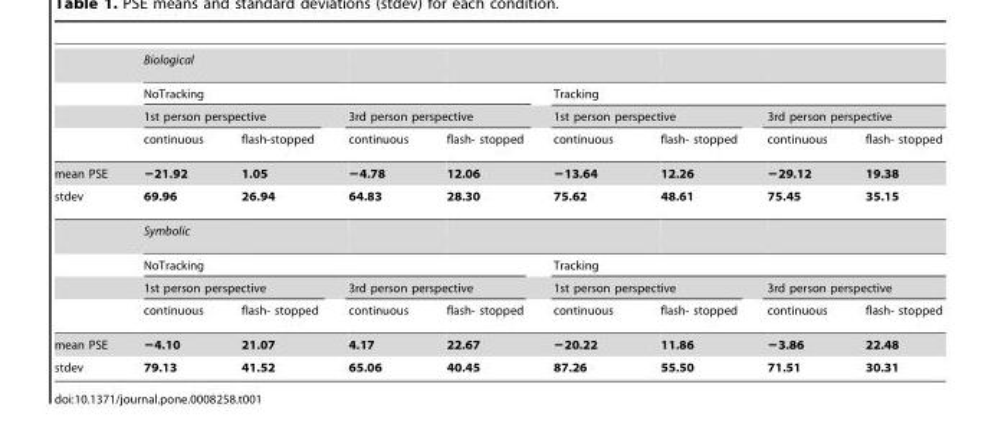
<table><thead><tr><td></td><td>Biological</td><td></td><td></td><td></td><td></td><td></td><td></td><td></td></tr></thead><tbody><tr><td></td><td colspan="2">NoTracking</td><td></td><td></td><td>Tracking</td><td></td><td></td><td></td></tr><tr><td></td><td colspan="2">1st person perspective</td><td colspan="2">3rd person perspective</td><td colspan="2">1st person perspective</td><td colspan="2">3rd person perspective</td></tr><tr><td></td><td>continuous</td><td>flash-stopped</td><td>continuous</td><td>flash- stopped</td><td>continuous</td><td>flash- stopped</td><td>continuous</td><td>flash- stopped</td></tr><tr><td>mean PSE</td><td>−21.92</td><td>1.05</td><td>−4.78</td><td>12.06</td><td>−13.64</td><td>12.26</td><td>−29.12</td><td>19.38</td></tr><tr><td rowspan="5">stdev</td><td>69.96</td><td>26.94</td><td>64.83</td><td>28.30</td><td>75.62</td><td>48.61</td><td>75.45</td><td>35.15</td></tr><tr><td>Symbolic</td><td></td><td></td><td></td><td></td><td></td><td></td><td></td></tr><tr><td colspan="2">NoTracking</td><td></td><td></td><td>Tracking</td><td></td><td></td><td></td></tr><tr><td colspan="2">1st person perspective</td><td colspan="2">3rd person perspective</td><td colspan="2">1st person perspective</td><td colspan="2">3rd person perspective</td></tr><tr><td>continuous</td><td>flash- stopped</td><td>continuous</td><td>flash- stopped</td><td>continuous</td><td>flash- stopped</td><td>continuous</td><td>flash- stopped</td></tr><tr><td>mean PSE</td><td>−4.10</td><td>21.07</td><td>4.17</td><td>22.67</td><td>−20.22</td><td>11.86</td><td>−3.86</td><td>22.48</td></tr><tr><td>stdev</td><td>79.13</td><td>41.52</td><td>65.06</td><td>40.45</td><td>87.26</td><td>55.50</td><td>71.51</td><td>30.31</td></tr></tbody></table>